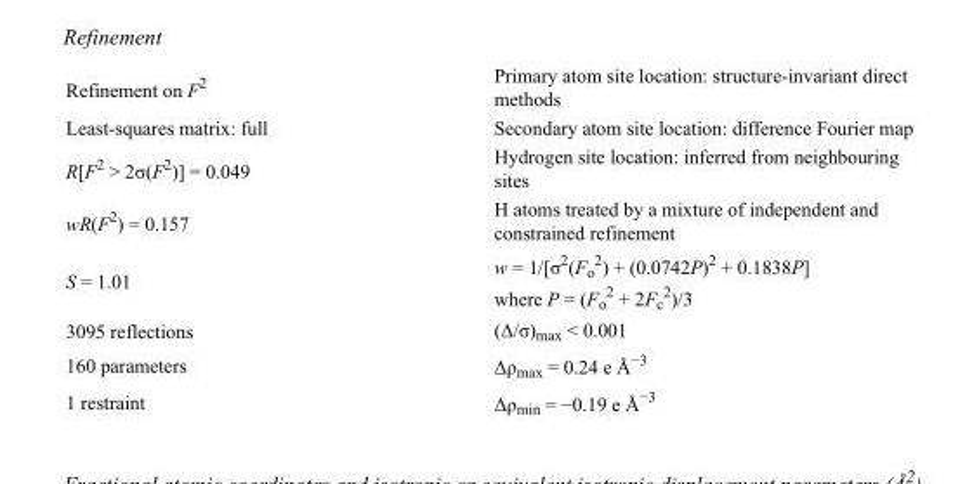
<table><tbody><tr><td>Refinement on F<sup>2</sup></td><td>Primary atom site location: structure-invariant direct methods</td></tr><tr><td>Least-squares matrix: full</td><td>Secondary atom site location: difference Fourier map</td></tr><tr><td>R[F<sup>2</sup> &gt; 2σ(F<sup>2</sup>)] = 0.049</td><td>Hydrogen site location: inferred from neighbouring sites</td></tr><tr><td>wR(F<sup>2</sup>) = 0.157</td><td>H atoms treated by a mixture of independent and constrained refinement</td></tr><tr><td>S = 1.01</td><td>w = 1/[σ<sup>2</sup>(F<sub>o</sub> <sup>2</sup>) + (0.0742P)<sup>2</sup> + 0.1838P] where P = (F<sub>o</sub> <sup>2</sup> + 2F<sub>c</sub> <sup>2</sup>)/3</td></tr><tr><td>3095 reflections</td><td>(Δ/σ)<sub>max</sub> &lt; 0.001</td></tr><tr><td>160 parameters</td><td>Δρ<sub>max</sub> = 0.24 e Å<sup>−3</sup></td></tr><tr><td>1 restraint</td><td>Δρ<sub>min</sub> = −0.19 e Å<sup>−3</sup></td></tr></tbody></table>